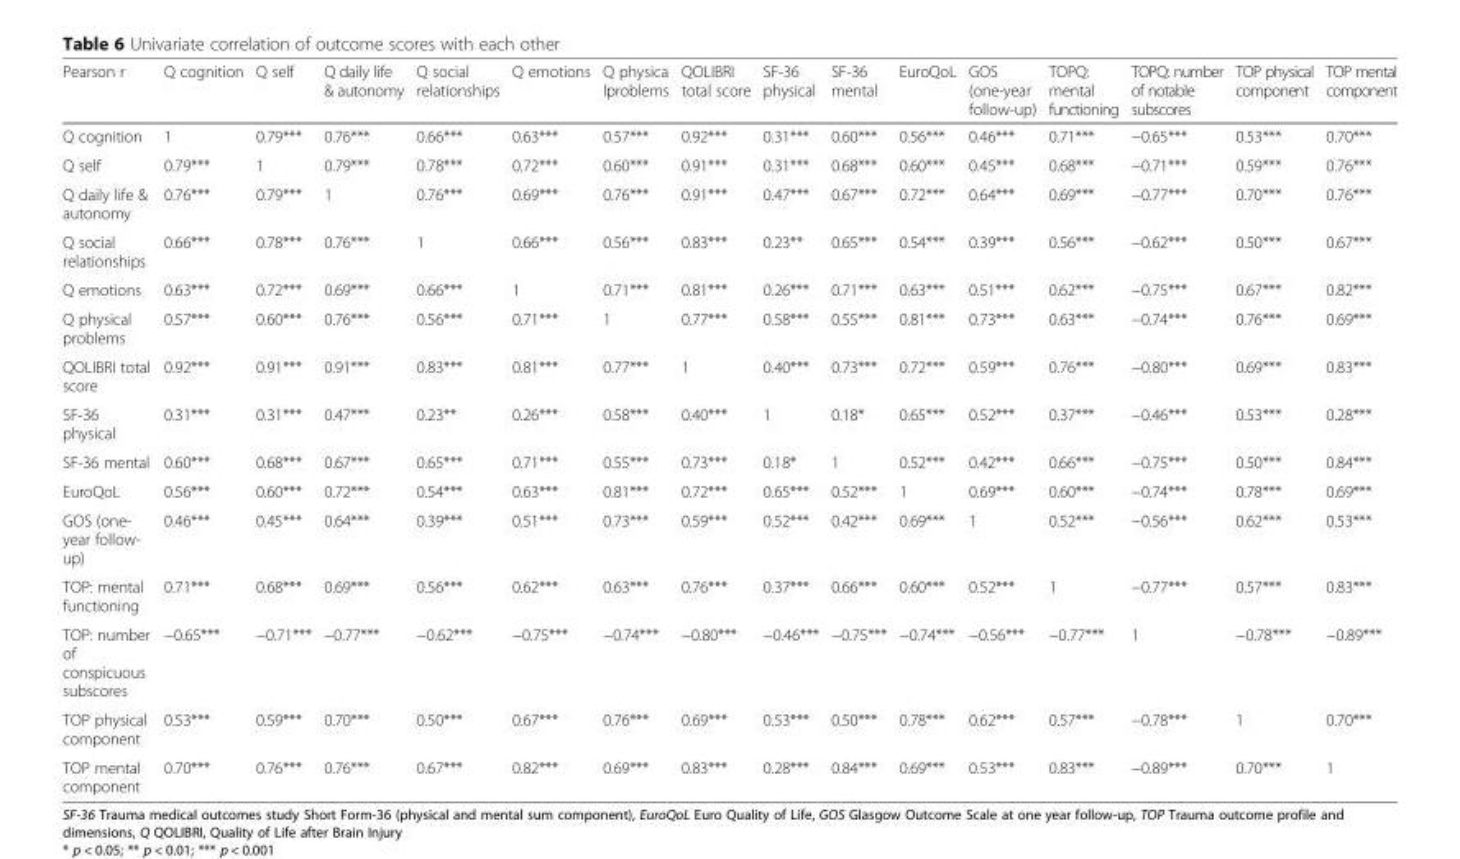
<table><thead><tr><td>Pearson r</td><td>Q cognition</td><td>Q self</td><td>Q daily life &amp; autonomy</td><td>Q social relationships</td><td>Q emotions</td><td>Q physica lproblems</td><td>QOLIBRI total score</td><td>SF-36 physical</td><td>SF-36 mental</td><td>EuroQoL</td><td>GOS (one-year follow-up)</td><td>TOPQ: mental functioning</td><td>TOPQ: number of notable subscores</td><td>TOP physical component</td><td>TOP mental component</td></tr></thead><tbody><tr><td>Q cognition</td><td>1</td><td>0.79***</td><td>0.76***</td><td>0.66***</td><td>0.63***</td><td>0.57***</td><td>0.92***</td><td>0.31***</td><td>0.60***</td><td>0.56***</td><td>0.46***</td><td>0.71***</td><td>−0.65***</td><td>0.53***</td><td>0.70***</td></tr><tr><td>Q self</td><td>0.79***</td><td>1</td><td>0.79***</td><td>0.78***</td><td>0.72***</td><td>0.60***</td><td>0.91***</td><td>0.31***</td><td>0.68***</td><td>0.60***</td><td>0.45***</td><td>0.68***</td><td>−0.71***</td><td>0.59***</td><td>0.76***</td></tr><tr><td>Q daily life &amp; autonomy</td><td>0.76***</td><td>0.79***</td><td>1</td><td>0.76***</td><td>0.69***</td><td>0.76***</td><td>0.91***</td><td>0.47***</td><td>0.67***</td><td>0.72***</td><td>0.64***</td><td>0.69***</td><td>−0.77***</td><td>0.70***</td><td>0.76***</td></tr><tr><td>Q social relationships</td><td>0.66***</td><td>0.78***</td><td>0.76***</td><td>1</td><td>0.66***</td><td>0.56***</td><td>0.83***</td><td>0.23**</td><td>0.65***</td><td>0.54***</td><td>0.39***</td><td>0.56***</td><td>−0.62***</td><td>0.50***</td><td>0.67***</td></tr><tr><td>Q emotions</td><td>0.63***</td><td>0.72***</td><td>0.69***</td><td>0.66***</td><td>1</td><td>0.71***</td><td>0.81***</td><td>0.26***</td><td>0.71***</td><td>0.63***</td><td>0.51***</td><td>0.62***</td><td>−0.75***</td><td>0.67***</td><td>0.82***</td></tr><tr><td>Q physical problems</td><td>0.57***</td><td>0.60***</td><td>0.76***</td><td>0.56***</td><td>0.71***</td><td>1</td><td>0.77***</td><td>0.58***</td><td>0.55***</td><td>0.81***</td><td>0.73***</td><td>0.63***</td><td>−0.74***</td><td>0.76***</td><td>0.69***</td></tr><tr><td>QOLIBRI total score</td><td>0.92***</td><td>0.91***</td><td>0.91***</td><td>0.83***</td><td>0.81***</td><td>0.77***</td><td>1</td><td>0.40***</td><td>0.73***</td><td>0.72***</td><td>0.59***</td><td>0.76***</td><td>−0.80***</td><td>0.69***</td><td>0.83***</td></tr><tr><td>SF-36 physical</td><td>0.31***</td><td>0.31***</td><td>0.47***</td><td>0.23**</td><td>0.26***</td><td>0.58***</td><td>0.40***</td><td>1</td><td>0.18*</td><td>0.65***</td><td>0.52***</td><td>0.37***</td><td>−0.46***</td><td>0.53***</td><td>0.28***</td></tr><tr><td>SF-36 mental</td><td>0.60***</td><td>0.68***</td><td>0.67***</td><td>0.65***</td><td>0.71***</td><td>0.55***</td><td>0.73***</td><td>0.18*</td><td>1</td><td>0.52***</td><td>0.42***</td><td>0.66***</td><td>−0.75***</td><td>0.50***</td><td>0.84***</td></tr><tr><td>EuroQoL</td><td>0.56***</td><td>0.60***</td><td>0.72***</td><td>0.54***</td><td>0.63***</td><td>0.81***</td><td>0.72***</td><td>0.65***</td><td>0.52***</td><td>1</td><td>0.69***</td><td>0.60***</td><td>−0.74***</td><td>0.78***</td><td>0.69***</td></tr><tr><td>GOS (one- year follow- up)</td><td>0.46***</td><td>0.45***</td><td>0.64***</td><td>0.39***</td><td>0.51***</td><td>0.73***</td><td>0.59***</td><td>0.52***</td><td>0.42***</td><td>0.69***</td><td>1</td><td>0.52***</td><td>−0.56***</td><td>0.62***</td><td>0.53***</td></tr><tr><td>TOP: mental functioning</td><td>0.71***</td><td>0.68***</td><td>0.69***</td><td>0.56***</td><td>0.62***</td><td>0.63***</td><td>0.76***</td><td>0.37***</td><td>0.66***</td><td>0.60***</td><td>0.52***</td><td>1</td><td>−0.77***</td><td>0.57***</td><td>0.83***</td></tr><tr><td>TOP: number of conspicuous subscores</td><td>−0.65***</td><td>−0.71***</td><td>−0.77***</td><td>−0.62***</td><td>−0.75***</td><td>−0.74***</td><td>−0.80***</td><td>−0.46***</td><td>−0.75***</td><td>−0.74***</td><td>−0.56***</td><td>−0.77***</td><td>1</td><td>−0.78***</td><td>−0.89***</td></tr><tr><td>TOP physical component</td><td>0.53***</td><td>0.59***</td><td>0.70***</td><td>0.50***</td><td>0.67***</td><td>0.76***</td><td>0.69***</td><td>0.53***</td><td>0.50***</td><td>0.78***</td><td>0.62***</td><td>0.57***</td><td>−0.78***</td><td>1</td><td>0.70***</td></tr><tr><td>TOP mental component</td><td>0.70***</td><td>0.76***</td><td>0.76***</td><td>0.67***</td><td>0.82***</td><td>0.69***</td><td>0.83***</td><td>0.28***</td><td>0.84***</td><td>0.69***</td><td>0.53***</td><td>0.83***</td><td>−0.89***</td><td>0.70***</td><td>1</td></tr></tbody></table>